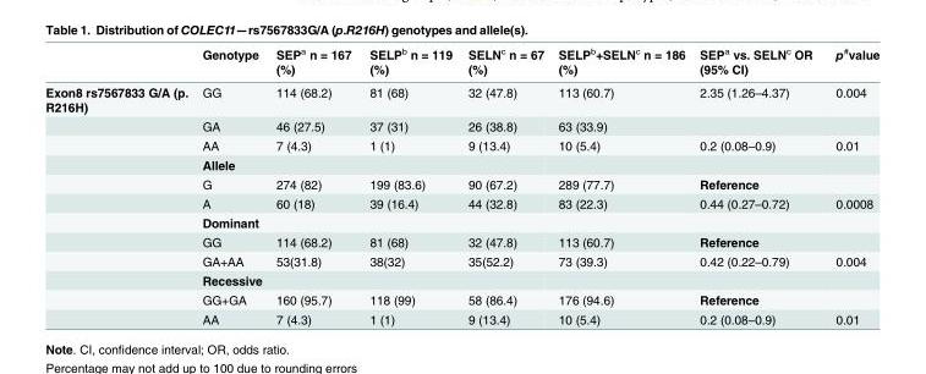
<table><thead><tr><td></td><td>Genotype</td><td>SEP<sup>a</sup> n = 167 (%)</td><td>SELP<sup>b</sup> n = 119 (%)</td><td>SELN<sup>c</sup> n = 67 (%)</td><td>SELP<sup>b</sup>+SELN<sup>c</sup> n = 186 (%)</td><td>SEP<sup>a</sup> vs. SELN<sup>c</sup> OR (95% CI)</td><td>p<sup>#</sup>value</td></tr></thead><tbody><tr><td rowspan="12">Exon8 rs7567833 G/A (p. R216H)</td><td>GG</td><td>114 (68.2)</td><td>81 (68)</td><td>32 (47.8)</td><td>113 (60.7)</td><td>2.35 (1.26–4.37)</td><td>0.004</td></tr><tr><td>GA</td><td>46 (27.5)</td><td>37 (31)</td><td>26 (38.8)</td><td>63 (33.9)</td><td></td><td></td></tr><tr><td>AA</td><td>7 (4.3)</td><td>1 (1)</td><td>9 (13.4)</td><td>10 (5.4)</td><td>0.2 (0.08–0.9)</td><td>0.01</td></tr><tr><td>Allele</td><td></td><td></td><td></td><td></td><td></td><td></td></tr><tr><td>G</td><td>274 (82)</td><td>199 (83.6)</td><td>90 (67.2)</td><td>289 (77.7)</td><td colspan="2">Reference</td></tr><tr><td>A</td><td>60 (18)</td><td>39 (16.4)</td><td>44 (32.8)</td><td>83 (22.3)</td><td>0.44 (0.27–0.72)</td><td>0.0008</td></tr><tr><td>Dominant</td><td></td><td></td><td></td><td></td><td></td><td></td></tr><tr><td>GG</td><td>114 (68.2)</td><td>81 (68)</td><td>32 (47.8)</td><td>113 (60.7)</td><td colspan="2">Reference</td></tr><tr><td>GA+AA</td><td>53(31.8)</td><td>38(32)</td><td>35(52.2)</td><td>73 (39.3)</td><td>0.42 (0.22–0.79)</td><td>0.004</td></tr><tr><td>Recessive</td><td></td><td></td><td></td><td></td><td></td><td></td></tr><tr><td>GG+GA</td><td>160 (95.7)</td><td>118 (99)</td><td>58 (86.4)</td><td>176 (94.6)</td><td colspan="2">Reference</td></tr><tr><td>AA</td><td>7 (4.3)</td><td>1 (1)</td><td>9 (13.4)</td><td>10 (5.4)</td><td>0.2 (0.08–0.9)</td><td>0.01</td></tr></tbody></table>